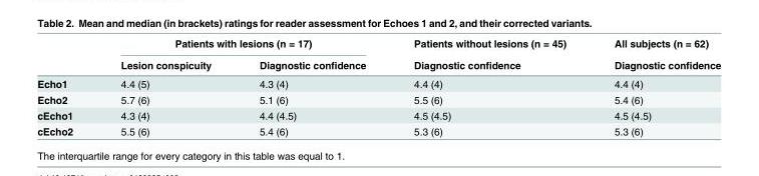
<table><thead><tr><td rowspan="2"></td><td colspan="2">Patients with lesions (n = 17)</td><td rowspan="2">Patients without lesions (n = 45) Diagnostic confidence</td><td rowspan="2">All subjects (n = 62) Diagnostic confidence</td></tr><tr><td>Lesion conspicuity</td><td>Diagnostic confidence</td></tr></thead><tbody><tr><td>Echo1</td><td>4.4 (5)</td><td>4.3 (4)</td><td>4.4 (4)</td><td>4.4 (4)</td></tr><tr><td>Echo2</td><td>5.7 (6)</td><td>5.1 (6)</td><td>5.5 (6)</td><td>5.4 (6)</td></tr><tr><td>cEcho1</td><td>4.3 (4)</td><td>4.4 (4.5)</td><td>4.5 (4.5)</td><td>4.5 (4.5)</td></tr><tr><td>cEcho2</td><td>5.5 (6)</td><td>5.4 (6)</td><td>5.3 (6)</td><td>5.3 (6)</td></tr></tbody></table>